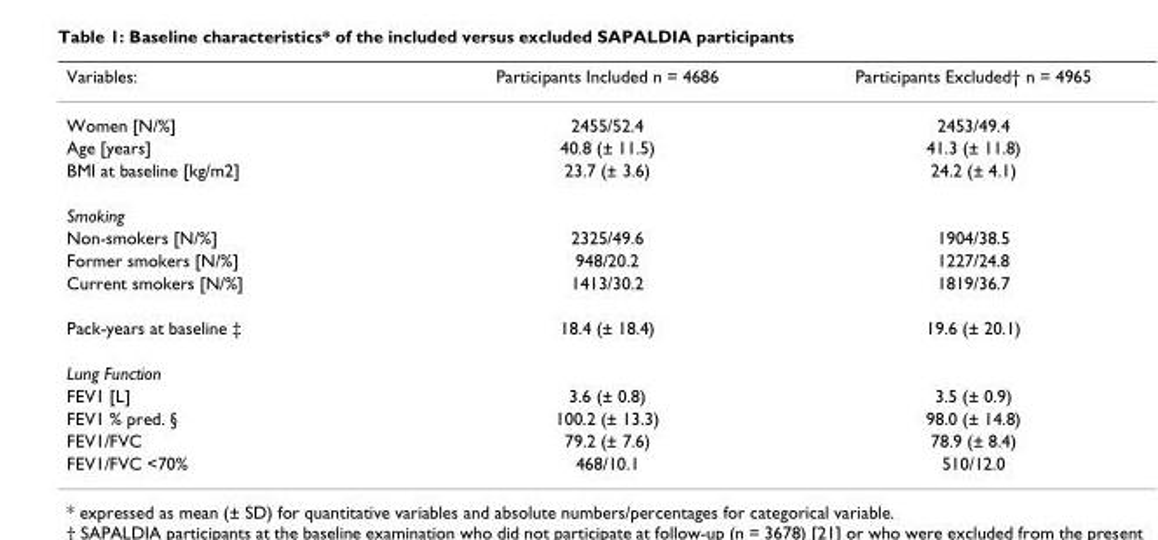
<table><thead><tr><td>Variables:</td><td>Participants Included n = 4686</td><td>Participants Excluded† n = 4965</td></tr></thead><tbody><tr><td>Women [N/%]</td><td>2455/52.4</td><td>2453/49.4</td></tr><tr><td>Age [years]</td><td>40.8 (± 11.5)</td><td>41.3 (± 11.8)</td></tr><tr><td>BMI at baseline [kg/m2]</td><td>23.7 (± 3.6)</td><td>24.2 (± 4.1)</td></tr><tr><td colspan="3">Smoking</td></tr><tr><td>Non-smokers [N/%]</td><td>2325/49.6</td><td>1904/38.5</td></tr><tr><td>Former smokers [N/%]</td><td>948/20.2</td><td>1227/24.8</td></tr><tr><td>Current smokers [N/%]</td><td>1413/30.2</td><td>1819/36.7</td></tr><tr><td>Pack-years at baseline ‡</td><td>18.4 (± 18.4)</td><td>19.6 (± 20.1)</td></tr><tr><td colspan="3">Lung Function</td></tr><tr><td>FEV1 [L]</td><td>3.6 (± 0.8)</td><td>3.5 (± 0.9)</td></tr><tr><td>FEV1 % pred. §</td><td>100.2 (± 13.3)</td><td>98.0 (± 14.8)</td></tr><tr><td>FEV1/FVC</td><td>79.2 (± 7.6)</td><td>78.9 (± 8.4)</td></tr><tr><td>FEV1/FVC &lt;70%</td><td>468/10.1</td><td>510/12.0</td></tr></tbody></table>